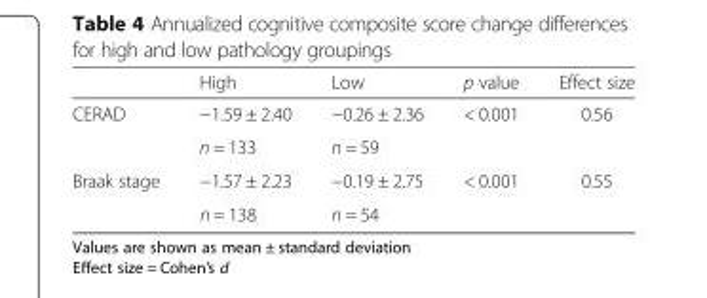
<table><thead><tr><td></td><td>High</td><td>Low</td><td>p value</td><td>Effect size</td></tr></thead><tbody><tr><td rowspan="2">CERAD</td><td>−1.59 ± 2.40</td><td>−0.26 ± 2.36</td><td>&lt; 0.001</td><td>0.56</td></tr><tr><td>n = 133</td><td>n = 59</td><td></td><td></td></tr><tr><td rowspan="2">Braak stage</td><td>−1.57 ± 2.23</td><td>−0.19 ± 2.75</td><td>&lt; 0.001</td><td>0.55</td></tr><tr><td>n = 138</td><td>n = 54</td><td></td><td></td></tr></tbody></table>